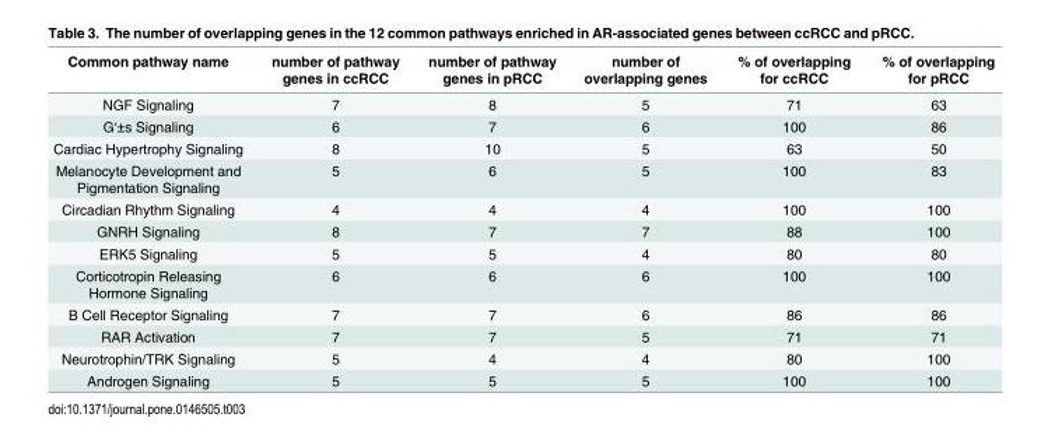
<table><thead><tr><td>Common pathway name</td><td>number of pathway genes in ccRCC</td><td>number of pathway genes in pRCC</td><td>number of overlapping genes</td><td>% of overlapping for ccRCC</td><td>% of overlapping for pRCC</td></tr></thead><tbody><tr><td>NGF Signaling</td><td>7</td><td>8</td><td>5</td><td>71</td><td>63</td></tr><tr><td>G‘±s Signaling</td><td>6</td><td>7</td><td>6</td><td>100</td><td>86</td></tr><tr><td>Cardiac Hypertrophy Signaling</td><td>8</td><td>10</td><td>5</td><td>63</td><td>50</td></tr><tr><td>Melanocyte Development and Pigmentation Signaling</td><td>5</td><td>6</td><td>5</td><td>100</td><td>83</td></tr><tr><td>Circadian Rhythm Signaling</td><td>4</td><td>4</td><td>4</td><td>100</td><td>100</td></tr><tr><td>GNRH Signaling</td><td>8</td><td>7</td><td>7</td><td>88</td><td>100</td></tr><tr><td>ERK5 Signaling</td><td>5</td><td>5</td><td>4</td><td>80</td><td>80</td></tr><tr><td>Corticotropin Releasing Hormone Signaling</td><td>6</td><td>6</td><td>6</td><td>100</td><td>100</td></tr><tr><td>B Cell Receptor Signaling</td><td>7</td><td>7</td><td>6</td><td>86</td><td>86</td></tr><tr><td>RAR Activation</td><td>7</td><td>7</td><td>5</td><td>71</td><td>71</td></tr><tr><td>Neurotrophin/TRK Signaling</td><td>5</td><td>4</td><td>4</td><td>80</td><td>100</td></tr><tr><td>Androgen Signaling</td><td>5</td><td>5</td><td>5</td><td>100</td><td>100</td></tr></tbody></table>